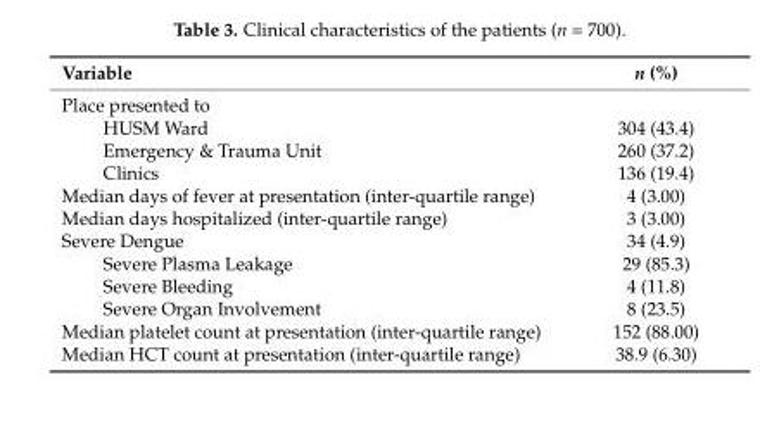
<table><thead><tr><td>Variable</td><td>n (%)</td></tr></thead><tbody><tr><td colspan="2">Place presented to</td></tr><tr><td>HUSM Ward</td><td>304 (43.4)</td></tr><tr><td>Emergency &amp; Trauma Unit</td><td>260 (37.2)</td></tr><tr><td>Clinics</td><td>136 (19.4)</td></tr><tr><td>Median days of fever at presentation (inter-quartile range)</td><td>4 (3.00)</td></tr><tr><td>Median days hospitalized (inter-quartile range)</td><td>3 (3.00)</td></tr><tr><td>Severe Dengue</td><td>34 (4.9)</td></tr><tr><td>Severe Plasma Leakage</td><td>29 (85.3)</td></tr><tr><td>Severe Bleeding</td><td>4 (11.8)</td></tr><tr><td>Severe Organ Involvement</td><td>8 (23.5)</td></tr><tr><td>Median platelet count at presentation (inter-quartile range)</td><td>152 (88.00)</td></tr><tr><td>Median HCT count at presentation (inter-quartile range)</td><td>38.9 (6.30)</td></tr></tbody></table>